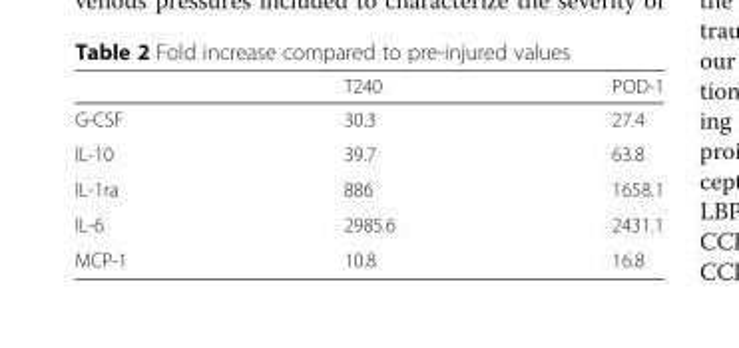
<table><thead><tr><td></td><td>T240</td><td>POD-1</td></tr></thead><tbody><tr><td>G-CSF</td><td>30.3</td><td>27.4</td></tr><tr><td>IL-10</td><td>39.7</td><td>63.8</td></tr><tr><td>IL-1ra</td><td>886</td><td>1658.1</td></tr><tr><td>IL-6</td><td>2985.6</td><td>2431.1</td></tr><tr><td>MCP-1</td><td>10.8</td><td>16.8</td></tr></tbody></table>